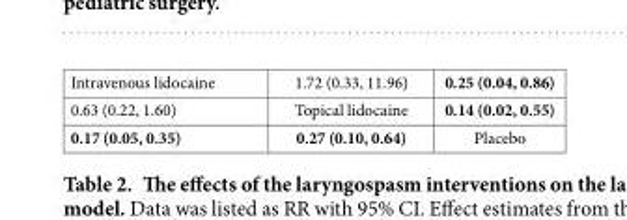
<table><tbody><tr><td>Intravenous lidocaine</td><td>1.72 (0.33, 11.96)</td><td>0.25 (0.04, 0.86)</td></tr><tr><td>0.63 (0.22, 1.60)</td><td>Topical lidocaine</td><td>0.14 (0.02, 0.55)</td></tr><tr><td>0.17 (0.05, 0.35)</td><td>0.27 (0.10, 0.64)</td><td>Placebo</td></tr></tbody></table>